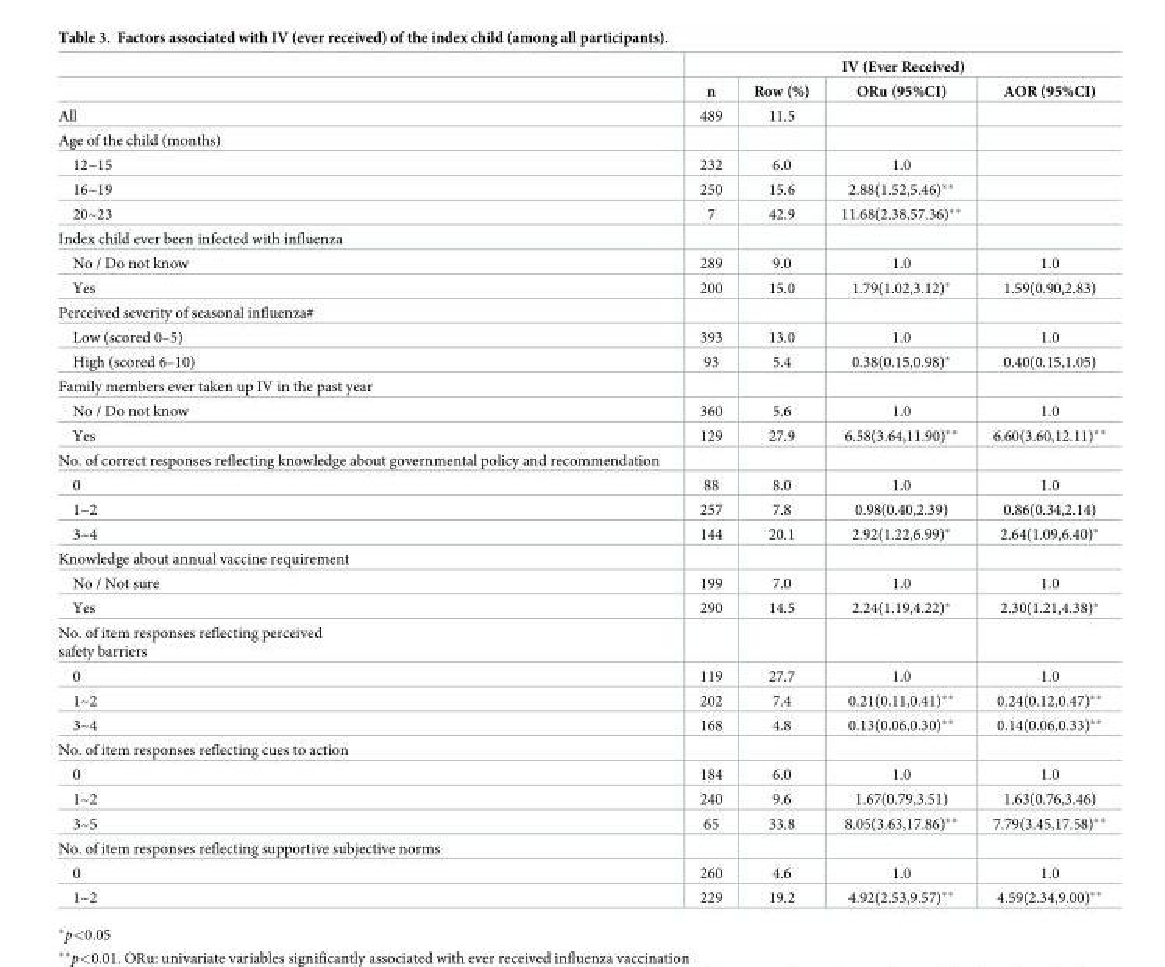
<table><thead><tr><td rowspan="2"></td><td colspan="4">IV (Ever Received)</td></tr><tr><td>n</td><td>Row (%)</td><td>ORu (95%CI)</td><td>AOR (95%CI)</td></tr></thead><tbody><tr><td>All</td><td>489</td><td>11.5</td><td></td><td></td></tr><tr><td colspan="5">Age of the child (months)</td></tr><tr><td>12~15</td><td>232</td><td>6.0</td><td>1.0</td><td></td></tr><tr><td>16~19</td><td>250</td><td>15.6</td><td>2.88(1.52,5.46)**</td><td></td></tr><tr><td>20~23</td><td>7</td><td>42.9</td><td>11.68(2.38,57.36)**</td><td></td></tr><tr><td colspan="5">Index child ever been infected with influenza</td></tr><tr><td>No / Do not know</td><td>289</td><td>9.0</td><td>1.0</td><td>1.0</td></tr><tr><td>Yes</td><td>200</td><td>15.0</td><td>1.79(1.02,3.12)*</td><td>1.59(0.90,2.83)</td></tr><tr><td colspan="5">Perceived severity of seasonal influenza#</td></tr><tr><td>Low (scored 0–5)</td><td>393</td><td>13.0</td><td>1.0</td><td>1.0</td></tr><tr><td>High (scored 6–10)</td><td>93</td><td>5.4</td><td>0.38(0.15,0.98)*</td><td>0.40(0.15,1.05)</td></tr><tr><td colspan="5">Family members ever taken up IV in the past year</td></tr><tr><td>No / Do not know</td><td>360</td><td>5.6</td><td>1.0</td><td>1.0</td></tr><tr><td>Yes</td><td>129</td><td>27.9</td><td>6.58(3.64,11.90)**</td><td>6.60(3.60,12.11)**</td></tr><tr><td colspan="5">No. of correct responses reflecting knowledge about governmental policy and recommendation</td></tr><tr><td>0</td><td>88</td><td>8.0</td><td>1.0</td><td>1.0</td></tr><tr><td>1~2</td><td>257</td><td>7.8</td><td>0.98(0.40,2.39)</td><td>0.86(0.34,2.14)</td></tr><tr><td>3~4</td><td>144</td><td>20.1</td><td>2.92(1.22,6.99)*</td><td>2.64(1.09,6.40)*</td></tr><tr><td colspan="5">Knowledge about annual vaccine requirement</td></tr><tr><td>No / Not sure</td><td>199</td><td>7.0</td><td>1.0</td><td>1.0</td></tr><tr><td>Yes</td><td>290</td><td>14.5</td><td>2.24(1.19,4.22)*</td><td>2.30(1.21,4.38)*</td></tr><tr><td colspan="5">No. of item responses reflecting perceived safety barriers</td></tr><tr><td>0</td><td>119</td><td>27.7</td><td>1.0</td><td>1.0</td></tr><tr><td>1~2</td><td>202</td><td>7.4</td><td>0.21(0.11,0.41)**</td><td>0.24(0.12,0.47)**</td></tr><tr><td>3~4</td><td>168</td><td>4.8</td><td>0.13(0.06,0.30)**</td><td>0.14(0.06,0.33)**</td></tr><tr><td colspan="5">No. of item responses reflecting cues to action</td></tr><tr><td>0</td><td>184</td><td>6.0</td><td>1.0</td><td>1.0</td></tr><tr><td>1~2</td><td>240</td><td>9.6</td><td>1.67(0.79,3.51)</td><td>1.63(0.76,3.46)</td></tr><tr><td>3~5</td><td>65</td><td>33.8</td><td>8.05(3.63,17.86)**</td><td>7.79(3.45,17.58)**</td></tr><tr><td colspan="5">No. of item responses reflecting supportive subjective norms</td></tr><tr><td>0</td><td>260</td><td>4.6</td><td>1.0</td><td>1.0</td></tr><tr><td>1~2</td><td>229</td><td>19.2</td><td>4.92(2.53,9.57)**</td><td>4.59(2.34,9.00)**</td></tr></tbody></table>